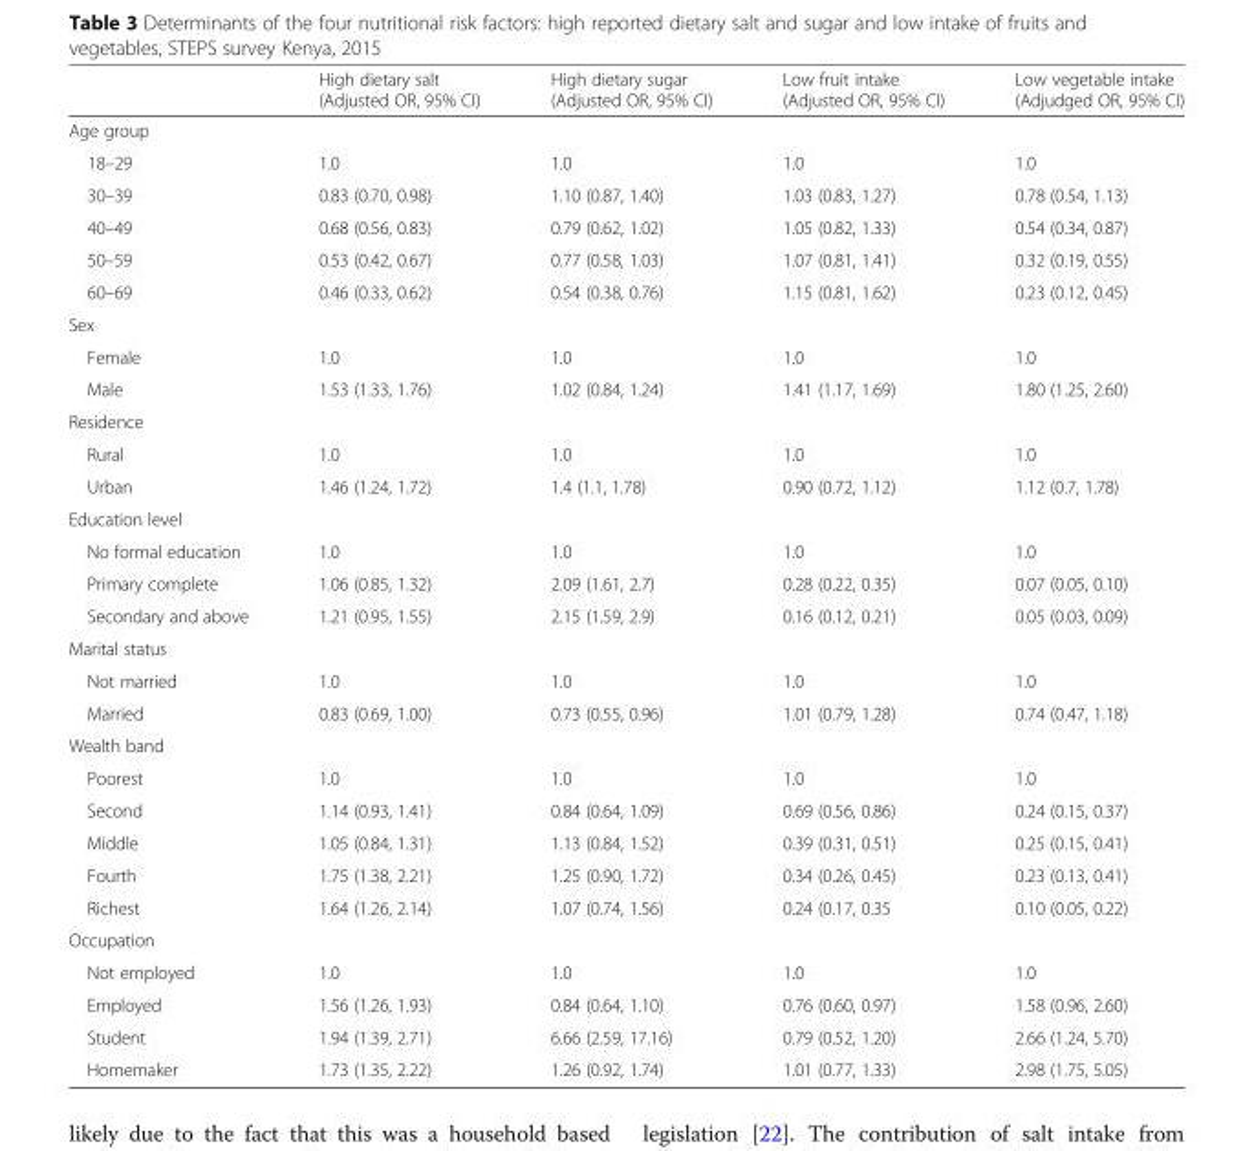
<table><thead><tr><td></td><td>High dietary salt (Adjusted OR, 95% CI)</td><td>High dietary sugar (Adjusted OR, 95% CI)</td><td>Low fruit intake (Adjusted OR, 95% CI)</td><td>Low vegetable intake (Adjudged OR, 95% CI)</td></tr></thead><tbody><tr><td colspan="5">Age group</td></tr><tr><td>18–29</td><td>1.0</td><td>1.0</td><td>1.0</td><td>1.0</td></tr><tr><td>30–39</td><td>0.83 (0.70, 0.98)</td><td>1.10 (0.87, 1.40)</td><td>1.03 (0.83, 1.27)</td><td>0.78 (0.54, 1.13)</td></tr><tr><td>40–49</td><td>0.68 (0.56, 0.83)</td><td>0.79 (0.62, 1.02)</td><td>1.05 (0.82, 1.33)</td><td>0.54 (0.34, 0.87)</td></tr><tr><td>50–59</td><td>0.53 (0.42, 0.67)</td><td>0.77 (0.58, 1.03)</td><td>1.07 (0.81, 1.41)</td><td>0.32 (0.19, 0.55)</td></tr><tr><td>60–69</td><td>0.46 (0.33, 0.62)</td><td>0.54 (0.38, 0.76)</td><td>1.15 (0.81, 1.62)</td><td>0.23 (0.12, 0.45)</td></tr><tr><td colspan="5">Sex</td></tr><tr><td>Female</td><td>1.0</td><td>1.0</td><td>1.0</td><td>1.0</td></tr><tr><td>Male</td><td>1.53 (1.33, 1.76)</td><td>1.02 (0.84, 1.24)</td><td>1.41 (1.17, 1.69)</td><td>1.80 (1.25, 2.60)</td></tr><tr><td colspan="5">Residence</td></tr><tr><td>Rural</td><td>1.0</td><td>1.0</td><td>1.0</td><td>1.0</td></tr><tr><td>Urban</td><td>1.46 (1.24, 1.72)</td><td>1.4 (1.1, 1.78)</td><td>0.90 (0.72, 1.12)</td><td>1.12 (0.7, 1.78)</td></tr><tr><td colspan="5">Education level</td></tr><tr><td>No formal education</td><td>1.0</td><td>1.0</td><td>1.0</td><td>1.0</td></tr><tr><td>Primary complete</td><td>1.06 (0.85, 1.32)</td><td>2.09 (1.61, 2.7)</td><td>0.28 (0.22, 0.35)</td><td>0.07 (0.05, 0.10)</td></tr><tr><td>Secondary and above</td><td>1.21 (0.95, 1.55)</td><td>2.15 (1.59, 2.9)</td><td>0.16 (0.12, 0.21)</td><td>0.05 (0.03, 0.09)</td></tr><tr><td colspan="5">Marital status</td></tr><tr><td>Not married</td><td>1.0</td><td>1.0</td><td>1.0</td><td>1.0</td></tr><tr><td>Married</td><td>0.83 (0.69, 1.00)</td><td>0.73 (0.55, 0.96)</td><td>1.01 (0.79, 1.28)</td><td>0.74 (0.47, 1.18)</td></tr><tr><td colspan="5">Wealth band</td></tr><tr><td>Poorest</td><td>1.0</td><td>1.0</td><td>1.0</td><td>1.0</td></tr><tr><td>Second</td><td>1.14 (0.93, 1.41)</td><td>0.84 (0.64, 1.09)</td><td>0.69 (0.56, 0.86)</td><td>0.24 (0.15, 0.37)</td></tr><tr><td>Middle</td><td>1.05 (0.84, 1.31)</td><td>1.13 (0.84, 1.52)</td><td>0.39 (0.31, 0.51)</td><td>0.25 (0.15, 0.41)</td></tr><tr><td>Fourth</td><td>1.75 (1.38, 2.21)</td><td>1.25 (0.90, 1.72)</td><td>0.34 (0.26, 0.45)</td><td>0.23 (0.13, 0.41)</td></tr><tr><td>Richest</td><td>1.64 (1.26, 2.14)</td><td>1.07 (0.74, 1.56)</td><td>0.24 (0.17, 0.35</td><td>0.10 (0.05, 0.22)</td></tr><tr><td colspan="5">Occupation</td></tr><tr><td>Not employed</td><td>1.0</td><td>1.0</td><td>1.0</td><td>1.0</td></tr><tr><td>Employed</td><td>1.56 (1.26, 1.93)</td><td>0.84 (0.64, 1.10)</td><td>0.76 (0.60, 0.97)</td><td>1.58 (0.96, 2.60)</td></tr><tr><td>Student</td><td>1.94 (1.39, 2.71)</td><td>6.66 (2.59, 17.16)</td><td>0.79 (0.52, 1.20)</td><td>2.66 (1.24, 5.70)</td></tr><tr><td>Homemaker</td><td>1.73 (1.35, 2.22)</td><td>1.26 (0.92, 1.74)</td><td>1.01 (0.77, 1.33)</td><td>2.98 (1.75, 5.05)</td></tr></tbody></table>